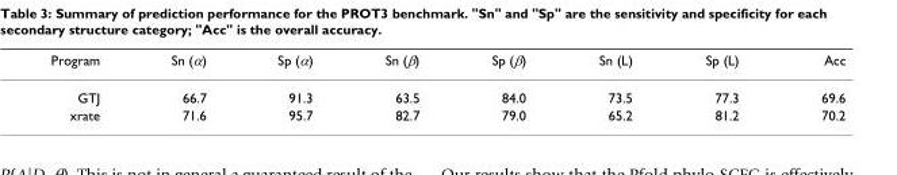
<table><thead><tr><td>Program</td><td>Sn (α)</td><td>Sp (α)</td><td>Sn (β)</td><td>Sp (β)</td><td>Sn (L)</td><td>Sp (L)</td><td>Acc</td></tr></thead><tbody><tr><td>GTJ</td><td>66.7</td><td>91.3</td><td>63.5</td><td>84.0</td><td>73.5</td><td>77.3</td><td>69.6</td></tr><tr><td>xrate</td><td>71.6</td><td>95.7</td><td>82.7</td><td>79.0</td><td>65.2</td><td>81.2</td><td>70.2</td></tr></tbody></table>